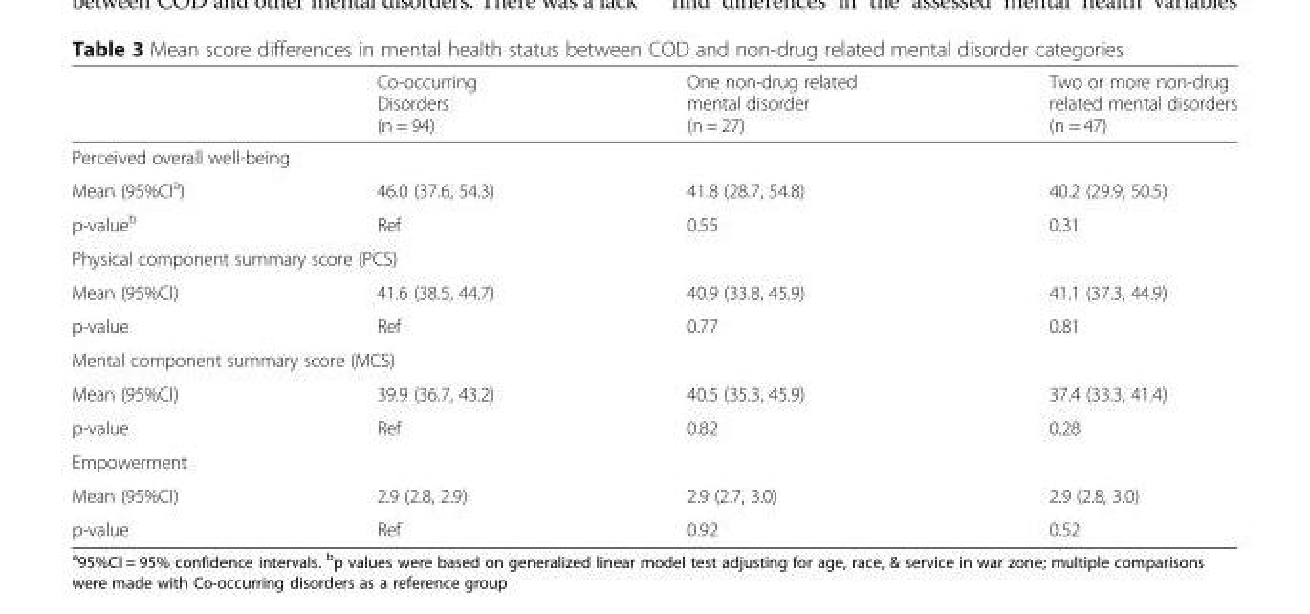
<table><thead><tr><td></td><td>Co-occurring Disorders (n = 94)</td><td>One non-drug related mental disorder (n = 27)</td><td>Two or more non-drug related mental disorders (n = 47)</td></tr></thead><tbody><tr><td colspan="4">Perceived overall well-being</td></tr><tr><td>Mean (95%CI<sup>a</sup>)</td><td>46.0 (37.6, 54.3)</td><td>41.8 (28.7, 54.8)</td><td>40.2 (29.9, 50.5)</td></tr><tr><td>p-value<sup>b</sup></td><td>Ref</td><td>0.55</td><td>0.31</td></tr><tr><td colspan="4">Physical component summary score (PCS)</td></tr><tr><td>Mean (95%CI)</td><td>41.6 (38.5, 44.7)</td><td>40.9 (33.8, 45.9)</td><td>41.1 (37.3, 44.9)</td></tr><tr><td>p-value</td><td>Ref</td><td>0.77</td><td>0.81</td></tr><tr><td colspan="4">Mental component summary score (MCS)</td></tr><tr><td>Mean (95%CI)</td><td>39.9 (36.7, 43.2)</td><td>40.5 (35.3, 45.9)</td><td>37.4 (33.3, 41.4)</td></tr><tr><td>p-value</td><td>Ref</td><td>0.82</td><td>0.28</td></tr><tr><td colspan="4">Empowerment</td></tr><tr><td>Mean (95%CI)</td><td>2.9 (2.8, 2.9)</td><td>2.9 (2.7, 3.0)</td><td>2.9 (2.8, 3.0)</td></tr><tr><td>p-value</td><td>Ref</td><td>0.92</td><td>0.52</td></tr></tbody></table>